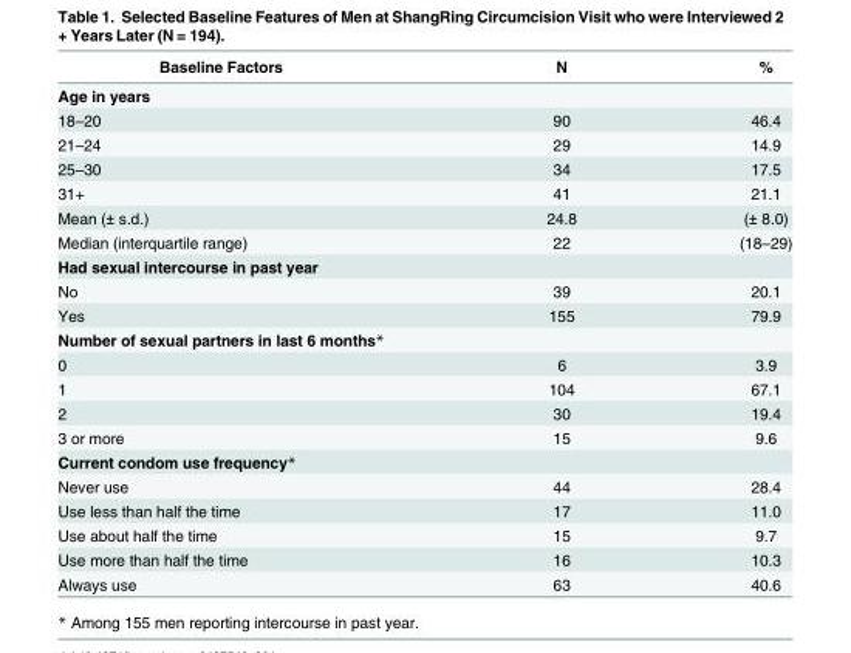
<table><thead><tr><td>Baseline Factors</td><td>N</td><td>%</td></tr></thead><tbody><tr><td colspan="3">Age in years</td></tr><tr><td>18–20</td><td>90</td><td>46.4</td></tr><tr><td>21–24</td><td>29</td><td>14.9</td></tr><tr><td>25–30</td><td>34</td><td>17.5</td></tr><tr><td>31+</td><td>41</td><td>21.1</td></tr><tr><td>Mean (± s.d.)</td><td>24.8</td><td>(± 8.0)</td></tr><tr><td>Median (interquartile range)</td><td>22</td><td>(18–29)</td></tr><tr><td colspan="3">Had sexual intercourse in past year</td></tr><tr><td>No</td><td>39</td><td>20.1</td></tr><tr><td>Yes</td><td>155</td><td>79.9</td></tr><tr><td colspan="3">Number of sexual partners in last 6 months*</td></tr><tr><td>0</td><td>6</td><td>3.9</td></tr><tr><td>1</td><td>104</td><td>67.1</td></tr><tr><td>2</td><td>30</td><td>19.4</td></tr><tr><td>3 or more</td><td>15</td><td>9.6</td></tr><tr><td colspan="3">Current condom use frequency*</td></tr><tr><td>Never use</td><td>44</td><td>28.4</td></tr><tr><td>Use less than half the time</td><td>17</td><td>11.0</td></tr><tr><td>Use about half the time</td><td>15</td><td>9.7</td></tr><tr><td>Use more than half the time</td><td>16</td><td>10.3</td></tr><tr><td>Always use</td><td>63</td><td>40.6</td></tr></tbody></table>